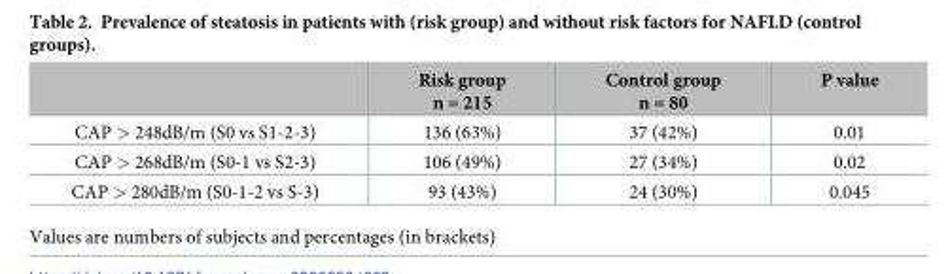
<table><thead><tr><td></td><td>Risk group n = 215</td><td>Control group n = 80</td><td>P value</td></tr></thead><tbody><tr><td>CAP &gt; 248dB/m (S0 vs S1-2-3)</td><td>136 (63%)</td><td>37 (42%)</td><td>0.01</td></tr><tr><td>CAP &gt; 268dB/m (S0-1 vs S2-3)</td><td>106 (49%)</td><td>27 (34%)</td><td>0.02</td></tr><tr><td>CAP &gt; 280dB/m (S0-1-2 vs S-3)</td><td>93 (43%)</td><td>24 (30%)</td><td>0.045</td></tr></tbody></table>